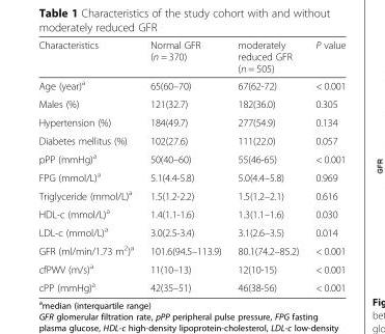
<table><thead><tr><td>Characteristics</td><td>Normal GFR (n = 370)</td><td>moderately reduced GFR (n = 505)</td><td>P value</td></tr></thead><tbody><tr><td>Age (year)<sup>a</sup></td><td>65(60–70)</td><td>67(62-72)</td><td>&lt; 0.001</td></tr><tr><td>Males (%)</td><td>121(32.7)</td><td>182(36.0)</td><td>0.305</td></tr><tr><td>Hypertension (%)</td><td>184(49.7)</td><td>277(54.9)</td><td>0.134</td></tr><tr><td>Diabetes mellitus (%)</td><td>102(27.6)</td><td>111(22.0)</td><td>0.057</td></tr><tr><td>pPP (mmHg)<sup>a</sup></td><td>50(40–60)</td><td>55(46-65)</td><td>&lt; 0.001</td></tr><tr><td>FPG (mmol/L)<sup>a</sup></td><td>5.1(4.4-5.8)</td><td>5.0(4.4–5.8)</td><td>0.969</td></tr><tr><td>Triglyceride (mmol/L)<sup>a</sup></td><td>1.5(1.2-2.2)</td><td>1.5(1.2–2.1)</td><td>0.616</td></tr><tr><td>HDL-c (mmol/L)<sup>a</sup></td><td>1.4(1.1-1.6)</td><td>1.3(1.1–1.6)</td><td>0.030</td></tr><tr><td>LDL-c (mmol/L)<sup>a</sup></td><td>3.0(2.5-3.4)</td><td>3.1(2.6–3.5)</td><td>0.014</td></tr><tr><td>GFR (ml/min/1.73 m<sup>2</sup>)<sup>a</sup></td><td>101.6(94.5–113.9)</td><td>80.1(74.2–85.2)</td><td>&lt; 0.001</td></tr><tr><td>cfPWV (m/s)<sup>a</sup></td><td>11(10–13)</td><td>12(10-15)</td><td>&lt; 0.001</td></tr><tr><td>cPP (mmHg)<sup>a</sup></td><td>42(35–51)</td><td>46(38-56)</td><td>&lt; 0.001</td></tr></tbody></table>